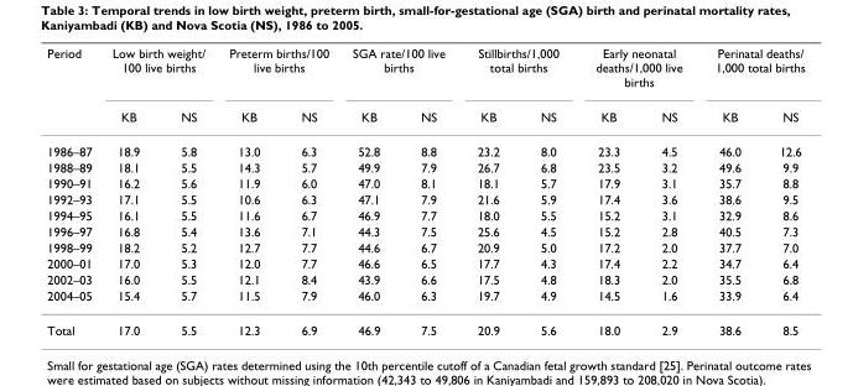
<table><thead><tr><td rowspan="2">Period</td><td colspan="2">Low birth weight/ 100 live births</td><td colspan="2">Preterm births/100 live births</td><td colspan="2">SGA rate/100 live births</td><td colspan="2">Stillbirths/1,000 total births</td><td colspan="2">Early neonatal deaths/1,000 live births</td><td colspan="2">Perinatal deaths/ 1,000 total births</td></tr><tr><td>KB</td><td>NS</td><td>KB</td><td>NS</td><td>KB</td><td>NS</td><td>KB</td><td>NS</td><td>KB</td><td>NS</td><td>KB</td><td>NS</td></tr></thead><tbody><tr><td>1986–87</td><td>18.9</td><td>5.8</td><td>13.0</td><td>6.3</td><td>52.8</td><td>8.8</td><td>23.2</td><td>8.0</td><td>23.3</td><td>4.5</td><td>46.0</td><td>12.6</td></tr><tr><td>1988–89</td><td>18.1</td><td>5.5</td><td>14.3</td><td>5.7</td><td>49.9</td><td>7.9</td><td>26.7</td><td>6.8</td><td>23.5</td><td>3.2</td><td>49.6</td><td>9.9</td></tr><tr><td>1990–91</td><td>16.2</td><td>5.6</td><td>11.9</td><td>6.0</td><td>47.0</td><td>8.1</td><td>18.1</td><td>5.7</td><td>17.9</td><td>3.1</td><td>35.7</td><td>8.8</td></tr><tr><td>1992–93</td><td>17.1</td><td>5.5</td><td>10.6</td><td>6.3</td><td>47.1</td><td>7.9</td><td>21.6</td><td>5.9</td><td>17.4</td><td>3.6</td><td>38.6</td><td>9.5</td></tr><tr><td>1994–95</td><td>16.1</td><td>5.5</td><td>11.6</td><td>6.7</td><td>46.9</td><td>7.7</td><td>18.0</td><td>5.5</td><td>15.2</td><td>3.1</td><td>32.9</td><td>8.6</td></tr><tr><td>1996–97</td><td>16.8</td><td>5.4</td><td>13.6</td><td>7.1</td><td>44.3</td><td>7.5</td><td>25.6</td><td>4.5</td><td>15.2</td><td>2.8</td><td>40.5</td><td>7.3</td></tr><tr><td>1998–99</td><td>18.2</td><td>5.2</td><td>12.7</td><td>7.7</td><td>44.6</td><td>6.7</td><td>20.9</td><td>5.0</td><td>17.2</td><td>2.0</td><td>37.7</td><td>7.0</td></tr><tr><td>2000–01</td><td>17.0</td><td>5.3</td><td>12.0</td><td>7.7</td><td>46.6</td><td>6.5</td><td>17.7</td><td>4.3</td><td>17.4</td><td>2.2</td><td>34.7</td><td>6.4</td></tr><tr><td>2002–03</td><td>16.0</td><td>5.5</td><td>12.1</td><td>8.4</td><td>43.9</td><td>6.6</td><td>17.5</td><td>4.8</td><td>18.3</td><td>2.0</td><td>35.5</td><td>6.8</td></tr><tr><td>2004–05</td><td>15.4</td><td>5.7</td><td>11.5</td><td>7.9</td><td>46.0</td><td>6.3</td><td>19.7</td><td>4.9</td><td>14.5</td><td>1.6</td><td>33.9</td><td>6.4</td></tr><tr><td>Total</td><td>17.0</td><td>5.5</td><td>12.3</td><td>6.9</td><td>46.9</td><td>7.5</td><td>20.9</td><td>5.6</td><td>18.0</td><td>2.9</td><td>38.6</td><td>8.5</td></tr></tbody></table>